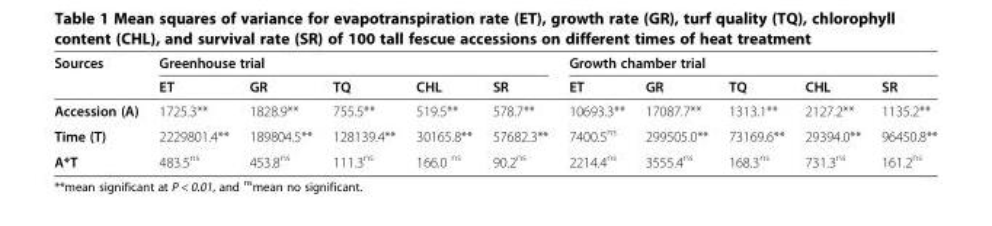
<table><thead><tr><td rowspan="2">Sources</td><td colspan="5">Greenhouse trial</td><td colspan="5">Growth chamber trial</td></tr><tr><td>ET</td><td>GR</td><td>TQ</td><td>CHL</td><td>SR</td><td>ET</td><td>GR</td><td>TQ</td><td>CHL</td><td>SR</td></tr></thead><tbody><tr><td>Accession (A)</td><td>1725.3**</td><td>1828.9**</td><td>755.5**</td><td>519.5**</td><td>578.7**</td><td>10693.3**</td><td>17087.7**</td><td>1313.1**</td><td>2127.2**</td><td>1135.2**</td></tr><tr><td>Time (T)</td><td>2229801.4**</td><td>189804.5**</td><td>128139.4**</td><td>30165.8**</td><td>57682.3**</td><td>7400.5<sup>ns</sup></td><td>299505.0**</td><td>73169.6**</td><td>29394.0**</td><td>96450.8**</td></tr><tr><td>A*T</td><td>483.5<sup>ns</sup></td><td>453.8<sup>ns</sup></td><td>111.3<sup>ns</sup></td><td>166.0 <sup>ns</sup></td><td>90.2<sup>ns</sup></td><td>2214.4<sup>ns</sup></td><td>3555.4<sup>ns</sup></td><td>168.3<sup>ns</sup></td><td>731.3<sup>ns</sup></td><td>161.2<sup>ns</sup></td></tr></tbody></table>